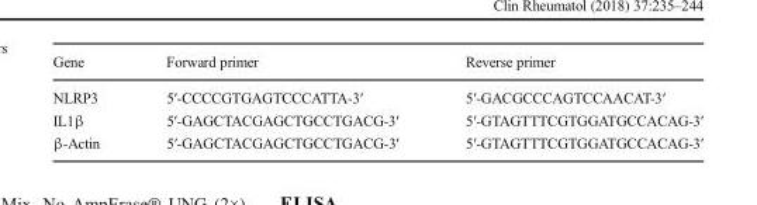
<table><thead><tr><td>Gene</td><td>Forward primer</td><td>Reverse primer</td></tr></thead><tbody><tr><td>NLRP3</td><td>5′-CCCCGTGAGTCCCATTA-3′</td><td>5′-GACGCCCAGTCCAACAT-3′</td></tr><tr><td>IL1β</td><td>5′-GAGCTACGAGCTGCCTGACG-3′</td><td>5′-GTAGTTTCGTGGATGCCACAG-3′</td></tr><tr><td>β-Actin</td><td>5′-GAGCTACGAGCTGCCTGACG-3′</td><td>5′-GTAGTTTCGTGGATGCCACAG-3′</td></tr></tbody></table>